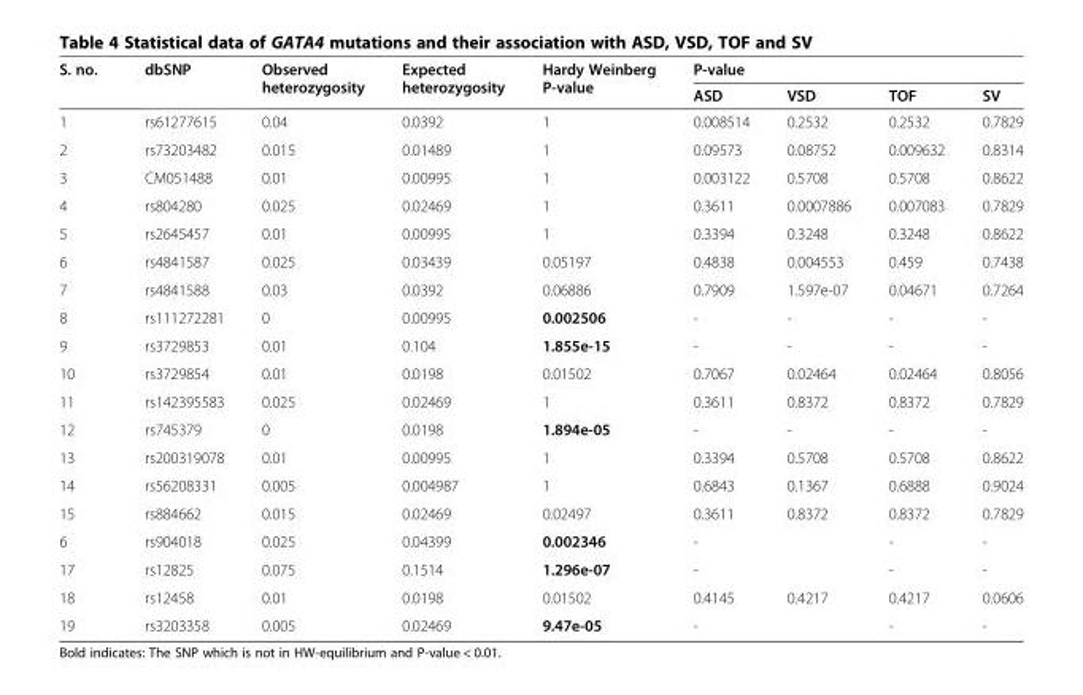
<table><thead><tr><td rowspan="2">S. no.</td><td rowspan="2">dbSNP</td><td rowspan="2">Observed heterozygosity</td><td rowspan="2">Expected heterozygosity</td><td rowspan="2">Hardy Weinberg P-value</td><td colspan="4">P-value</td></tr><tr><td>ASD</td><td>VSD</td><td>TOF</td><td>SV</td></tr></thead><tbody><tr><td>1</td><td>rs61277615</td><td>0.04</td><td>0.0392</td><td>1</td><td>0.008514</td><td>0.2532</td><td>0.2532</td><td>0.7829</td></tr><tr><td>2</td><td>rs73203482</td><td>0.015</td><td>0.01489</td><td>1</td><td>0.09573</td><td>0.08752</td><td>0.009632</td><td>0.8314</td></tr><tr><td>3</td><td>CM051488</td><td>0.01</td><td>0.00995</td><td>1</td><td>0.003122</td><td>0.5708</td><td>0.5708</td><td>0.8622</td></tr><tr><td>4</td><td>rs804280</td><td>0.025</td><td>0.02469</td><td>1</td><td>0.3611</td><td>0.0007886</td><td>0.007083</td><td>0.7829</td></tr><tr><td>5</td><td>rs2645457</td><td>0.01</td><td>0.00995</td><td>1</td><td>0.3394</td><td>0.3248</td><td>0.3248</td><td>0.8622</td></tr><tr><td>6</td><td>rs4841587</td><td>0.025</td><td>0.03439</td><td>0.05197</td><td>0.4838</td><td>0.004553</td><td>0.459</td><td>0.7438</td></tr><tr><td>7</td><td>rs4841588</td><td>0.03</td><td>0.0392</td><td>0.06886</td><td>0.7909</td><td>1.597e-07</td><td>0.04671</td><td>0.7264</td></tr><tr><td>8</td><td>rs111272281</td><td>0</td><td>0.00995</td><td>0.002506</td><td>-</td><td>-</td><td>-</td><td>-</td></tr><tr><td>9</td><td>rs3729853</td><td>0.01</td><td>0.104</td><td>1.855e-15</td><td>-</td><td>-</td><td>-</td><td>-</td></tr><tr><td>10</td><td>rs3729854</td><td>0.01</td><td>0.0198</td><td>0.01502</td><td>0.7067</td><td>0.02464</td><td>0.02464</td><td>0.8056</td></tr><tr><td>11</td><td>rs142395583</td><td>0.025</td><td>0.02469</td><td>1</td><td>0.3611</td><td>0.8372</td><td>0.8372</td><td>0.7829</td></tr><tr><td>12</td><td>rs745379</td><td>0</td><td>0.0198</td><td>1.894e-05</td><td>-</td><td>-</td><td>-</td><td>-</td></tr><tr><td>13</td><td>rs200319078</td><td>0.01</td><td>0.00995</td><td>1</td><td>0.3394</td><td>0.5708</td><td>0.5708</td><td>0.8622</td></tr><tr><td>14</td><td>rs56208331</td><td>0.005</td><td>0.004987</td><td>1</td><td>0.6843</td><td>0.1367</td><td>0.6888</td><td>0.9024</td></tr><tr><td>15</td><td>rs884662</td><td>0.015</td><td>0.02469</td><td>0.02497</td><td>0.3611</td><td>0.8372</td><td>0.8372</td><td>0.7829</td></tr><tr><td>6</td><td>rs904018</td><td>0.025</td><td>0.04399</td><td>0.002346</td><td>-</td><td></td><td>-</td><td>-</td></tr><tr><td>17</td><td>rs12825</td><td>0.075</td><td>0.1514</td><td>1.296e-07</td><td>-</td><td></td><td>-</td><td>-</td></tr><tr><td>18</td><td>rs12458</td><td>0.01</td><td>0.0198</td><td>0.01502</td><td>0.4145</td><td>0.4217</td><td>0.4217</td><td>0.0606</td></tr><tr><td>19</td><td>rs3203358</td><td>0.005</td><td>0.02469</td><td>9.47e-05</td><td>-</td><td></td><td>-</td><td>-</td></tr></tbody></table>